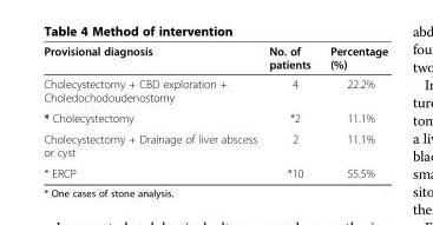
<table><thead><tr><td>Provisional diagnosis</td><td>No. of patients</td><td>Percentage (%)</td></tr></thead><tbody><tr><td>Cholecystectomy + CBD exploration + Choledochodoudenostomy</td><td>4</td><td>22.2%</td></tr><tr><td>* Cholecystectomy</td><td>*2</td><td>11.1%</td></tr><tr><td>Cholecystectomy + Drainage of liver abscess or cyst</td><td>2</td><td>11.1%</td></tr><tr><td>* ERCP</td><td>*10</td><td>55.5%</td></tr></tbody></table>